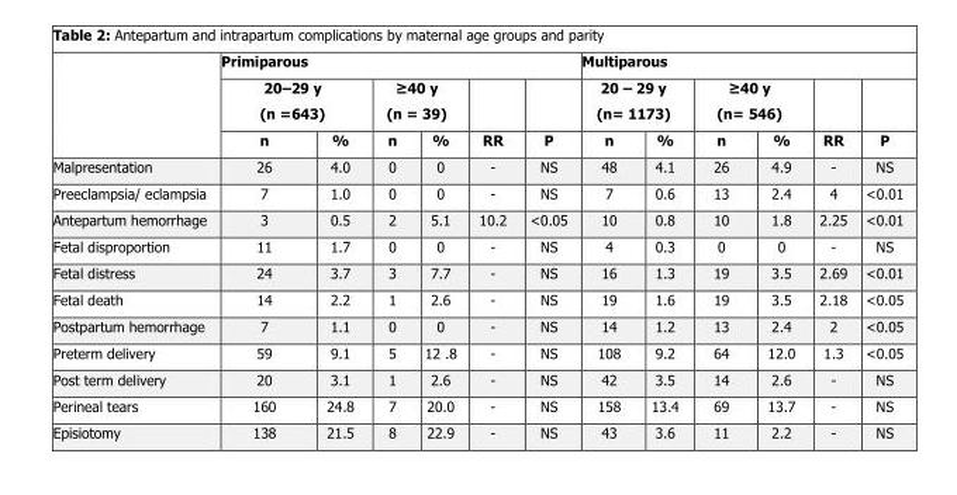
<table><thead><tr><td rowspan="3"></td><td colspan="6">Primiparous</td><td colspan="6">Multiparous</td></tr><tr><td colspan="2">20–29 y (n =643)</td><td colspan="2">≥40 y (n = 39)</td><td rowspan="2">RR</td><td rowspan="2">P</td><td colspan="2">20 – 29 y (n= 1173)</td><td colspan="2">≥40 y (n= 546)</td><td rowspan="2">RR</td><td rowspan="2">P</td></tr><tr><td>n</td><td>%</td><td>n</td><td>%</td><td>n</td><td>%</td><td>n</td><td>%</td></tr></thead><tbody><tr><td>Malpresentation</td><td>26</td><td>4.0</td><td>0</td><td>0</td><td>-</td><td>NS</td><td>48</td><td>4.1</td><td>26</td><td>4.9</td><td>-</td><td>NS</td></tr><tr><td>Preeclampsia/ eclampsia</td><td>7</td><td>1.0</td><td>0</td><td>0</td><td>-</td><td>NS</td><td>7</td><td>0.6</td><td>13</td><td>2.4</td><td>4</td><td>&lt;0.01</td></tr><tr><td>Antepartum hemorrhage</td><td>3</td><td>0.5</td><td>2</td><td>5.1</td><td>10.2</td><td>&lt;0.05</td><td>10</td><td>0.8</td><td>10</td><td>1.8</td><td>2.25</td><td>&lt;0.01</td></tr><tr><td>Fetal disproportion</td><td>11</td><td>1.7</td><td>0</td><td>0</td><td>-</td><td>NS</td><td>4</td><td>0.3</td><td>0</td><td>0</td><td>-</td><td>NS</td></tr><tr><td>Fetal distress</td><td>24</td><td>3.7</td><td>3</td><td>7.7</td><td>-</td><td>NS</td><td>16</td><td>1.3</td><td>19</td><td>3.5</td><td>2.69</td><td>&lt;0.01</td></tr><tr><td>Fetal death</td><td>14</td><td>2.2</td><td>1</td><td>2.6</td><td>-</td><td>NS</td><td>19</td><td>1.6</td><td>19</td><td>3.5</td><td>2.18</td><td>&lt;0.05</td></tr><tr><td>Postpartum hemorrhage</td><td>7</td><td>1.1</td><td>0</td><td>0</td><td>-</td><td>NS</td><td>14</td><td>1.2</td><td>13</td><td>2.4</td><td>2</td><td>&lt;0.05</td></tr><tr><td>Preterm delivery</td><td>59</td><td>9.1</td><td>5</td><td>12 .8</td><td>-</td><td>NS</td><td>108</td><td>9.2</td><td>64</td><td>12.0</td><td>1.3</td><td>&lt;0.05</td></tr><tr><td>Post term delivery</td><td>20</td><td>3.1</td><td>1</td><td>2.6</td><td>-</td><td>NS</td><td>42</td><td>3.5</td><td>14</td><td>2.6</td><td>-</td><td>NS</td></tr><tr><td>Perineal tears</td><td>160</td><td>24.8</td><td>7</td><td>20.0</td><td>-</td><td>NS</td><td>158</td><td>13.4</td><td>69</td><td>13.7</td><td>-</td><td>NS</td></tr><tr><td>Episiotomy</td><td>138</td><td>21.5</td><td>8</td><td>22.9</td><td>-</td><td>NS</td><td>43</td><td>3.6</td><td>11</td><td>2.2</td><td>-</td><td>NS</td></tr></tbody></table>